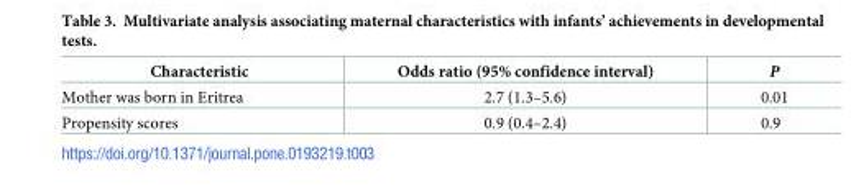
<table><thead><tr><td>Characteristic</td><td>Odds ratio (95% confidence interval)</td><td>P</td></tr></thead><tbody><tr><td>Mother was born in Eritrea</td><td>2.7 (1.3–5.6)</td><td>0.01</td></tr><tr><td>Propensity scores</td><td>0.9 (0.4–2.4)</td><td>0.9</td></tr></tbody></table>